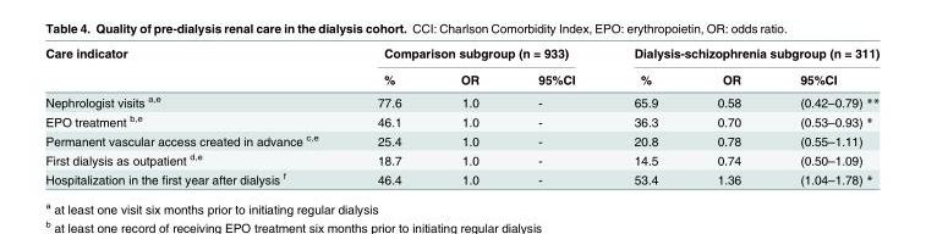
<table><thead><tr><td rowspan="2">Care indicator</td><td colspan="3">Comparison subgroup (n = 933)</td><td colspan="3">Dialysis-schizophrenia subgroup (n = 311)</td></tr><tr><td>%</td><td>OR</td><td>95%CI</td><td>%</td><td>OR</td><td>95%CI</td></tr></thead><tbody><tr><td>Nephrologist visits <sup>a,e</sup></td><td>77.6</td><td>1.0</td><td>-</td><td>65.9</td><td>0.58</td><td>(0.42–0.79) **</td></tr><tr><td>EPO treatment <sup>b,e</sup></td><td>46.1</td><td>1.0</td><td>-</td><td>36.3</td><td>0.70</td><td>(0.53–0.93) *</td></tr><tr><td>Permanent vascular access created in advance <sup>c,e</sup></td><td>25.4</td><td>1.0</td><td>-</td><td>20.8</td><td>0.78</td><td>(0.55–1.11)</td></tr><tr><td>First dialysis as outpatient <sup>d,e</sup></td><td>18.7</td><td>1.0</td><td>-</td><td>14.5</td><td>0.74</td><td>(0.50–1.09)</td></tr><tr><td>Hospitalization in the first year after dialysis <sup>f</sup></td><td>46.4</td><td>1.0</td><td>-</td><td>53.4</td><td>1.36</td><td>(1.04–1.78) *</td></tr></tbody></table>